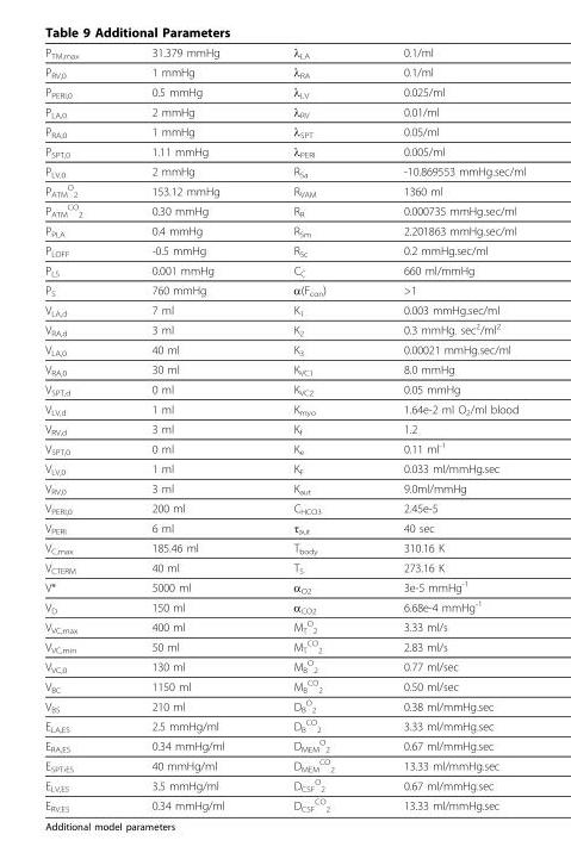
<table><thead><tr><td>P<sub>TM,max</sub></td><td>31.379 mmHg</td><td>λ<sub>LA</sub></td><td>0.1/ml</td></tr></thead><tbody><tr><td>P<sub>RV,0</sub></td><td>1 mmHg</td><td>λ<sub>RA</sub></td><td>0.1/ml</td></tr><tr><td>P<sub>PERI,0</sub></td><td>0.5 mmHg</td><td>λ<sub>LV</sub></td><td>0.025/ml</td></tr><tr><td>P<sub>LA,0</sub></td><td>2 mmHg</td><td>λ<sub>RV</sub></td><td>0.01/ml</td></tr><tr><td>P<sub>RA,0</sub></td><td>1 mmHg</td><td>λ<sub>SPT</sub></td><td>0.05/ml</td></tr><tr><td>P<sub>SPT,0</sub></td><td>1.11 mmHg</td><td>λ<sub>PERI</sub></td><td>0.005/ml</td></tr><tr><td>P<sub>LV,0</sub></td><td>2 mmHg</td><td>R<sub>Sa</sub></td><td>-10.869553 mmHg.sec/ml</td></tr><tr><td>P<sub>ATM</sub> <sup>O</sup> <sub>2</sub></td><td>153.12 mmHg</td><td>R<sub>VAM</sub></td><td>1360 ml</td></tr><tr><td>P<sub>ATM</sub> <sup>CO</sup> <sub>2</sub></td><td>0.30 mmHg</td><td>R<sub>R</sub></td><td>0.000735 mmHg.sec/ml</td></tr><tr><td>P<sub>PLA</sub></td><td>0.4 mmHg</td><td>R<sub>Sm</sub></td><td>2.201863 mmHg.sec/ml</td></tr><tr><td>P<sub>LOFF</sub></td><td>-0.5 mmHg</td><td>R<sub>Sc</sub></td><td>0.2 mmHg.sec/ml</td></tr><tr><td>P<sub>LS</sub></td><td>0.001 mmHg</td><td>C<sub>C</sub></td><td>660 ml/mmHg</td></tr><tr><td>P<sub>S</sub></td><td>760 mmHg</td><td>α(F<sub>con</sub>)</td><td>&gt;1</td></tr><tr><td>V<sub>LA,d</sub></td><td>7 ml</td><td>K<sub>1</sub></td><td>0.003 mmHg.sec/ml</td></tr><tr><td>V<sub>RA,d</sub></td><td>3 ml</td><td>K<sub>2</sub></td><td>0.3 mmHg. sec<sup>2</sup>/ml<sup>2</sup></td></tr><tr><td>V<sub>LA,0</sub></td><td>40 ml</td><td>K<sub>3</sub></td><td>0.00021 mmHg.sec/ml</td></tr><tr><td>V<sub>RA,0</sub></td><td>30 ml</td><td>K<sub>VC1</sub></td><td>8.0 mmHg</td></tr><tr><td>V<sub>SPT,d</sub></td><td>0 ml</td><td>K<sub>VC2</sub></td><td>0.05 mmHg</td></tr><tr><td>V<sub>LV,d</sub></td><td>1 ml</td><td>K<sub>myo</sub></td><td>1.64e-2 ml O<sub>2</sub>/ml blood</td></tr><tr><td>V<sub>RV,d</sub></td><td>3 ml</td><td>K<sub>f</sub></td><td>1.2</td></tr><tr><td>V<sub>SPT,0</sub></td><td>0 ml</td><td>K<sub>e</sub></td><td>0.11 ml<sup>-1</sup></td></tr><tr><td>V<sub>LV,0</sub></td><td>1 ml</td><td>K<sub>F</sub></td><td>0.033 ml/mmHg.sec</td></tr><tr><td>V<sub>RV,0</sub></td><td>3 ml</td><td>K<sub>aut</sub></td><td>9.0ml/mmHg</td></tr><tr><td>V<sub>PERI,0</sub></td><td>200 ml</td><td>C<sub>HCO3</sub></td><td>2.45e-5</td></tr><tr><td>V<sub>PERI</sub></td><td>6 ml</td><td>τ<sub>aut</sub></td><td>40 sec</td></tr><tr><td>V<sub>C,max</sub></td><td>185.46 ml</td><td>T<sub>body</sub></td><td>310.16 K</td></tr><tr><td>V<sub>CTERM</sub></td><td>40 ml</td><td>T<sub>S</sub></td><td>273.16 K</td></tr><tr><td>V*</td><td>5000 ml</td><td>α<sub>O2</sub></td><td>3e-5 mmHg<sup>-1</sup></td></tr><tr><td>V<sub>D</sub></td><td>150 ml</td><td>α<sub>CO2</sub></td><td>6.68e-4 mmHg<sup>-1</sup></td></tr><tr><td>V<sub>VC,max</sub></td><td>400 ml</td><td>M<sub>T</sub> <sup>O</sup> <sub>2</sub></td><td>3.33 ml/s</td></tr><tr><td>V<sub>VC,min</sub></td><td>50 ml</td><td>M<sub>T</sub> <sup>CO</sup> <sub>2</sub></td><td>2.83 ml/s</td></tr><tr><td>V<sub>VC,0</sub></td><td>130 ml</td><td>M<sub>B</sub> <sup>O</sup> <sub>2</sub></td><td>0.77 ml/sec</td></tr><tr><td>V<sub>BC</sub></td><td>1150 ml</td><td>M<sub>B</sub> <sup>CO</sup> <sub>2</sub></td><td>0.50 ml/sec</td></tr><tr><td>V<sub>BS</sub></td><td>210 ml</td><td>D<sub>B</sub> <sup>O</sup> <sub>2</sub></td><td>0.38 ml/mmHg.sec</td></tr><tr><td>E<sub>LA,ES</sub></td><td>2.5 mmHg/ml</td><td>D<sub>B</sub> <sup>CO</sup> <sub>2</sub></td><td>3.33 ml/mmHg.sec</td></tr><tr><td>E<sub>RA,ES</sub></td><td>0.34 mmHg/ml</td><td>D<sub>MEM</sub> <sup>O</sup> <sub>2</sub></td><td>0.67 ml/mmHg.sec</td></tr><tr><td>E<sub>SPT</sub>,<sub>ES</sub></td><td>40 mmHg/ml</td><td>D<sub>MEM</sub> <sup>CO</sup> <sub>2</sub></td><td>13.33 ml/mmHg.sec</td></tr><tr><td>E<sub>LV,ES</sub></td><td>3.5 mmHg/ml</td><td>D<sub>CSF</sub> <sup>O</sup> <sub>2</sub></td><td>0.67 ml/mmHg.sec</td></tr><tr><td>E<sub>RV,ES</sub></td><td>0.34 mmHg/ml</td><td>D<sub>CSF</sub> <sup>CO</sup> <sub>2</sub></td><td>13.33 ml/mmHg.sec</td></tr></tbody></table>